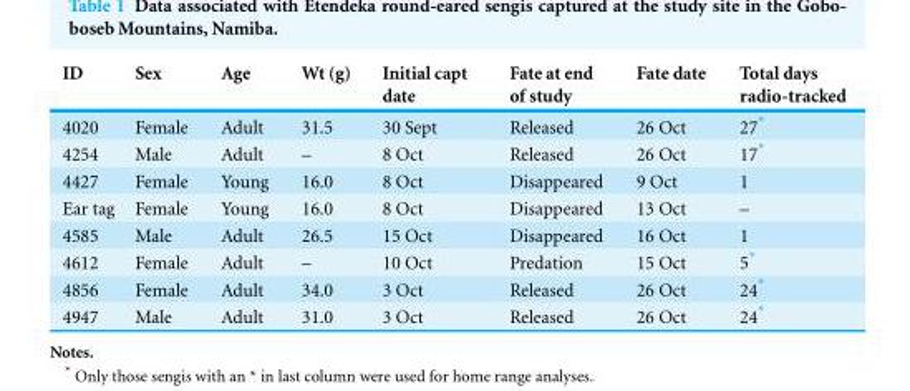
<table><thead><tr><td>ID</td><td>Sex</td><td>Age</td><td>Wt (g)</td><td>Initial capt date</td><td>Fate at end of study</td><td>Fate date</td><td>Total days radio-tracked</td></tr></thead><tbody><tr><td>4020</td><td>Female</td><td>Adult</td><td>31.5</td><td>30 Sept</td><td>Released</td><td>26 Oct</td><td>27*</td></tr><tr><td>4254</td><td>Male</td><td>Adult</td><td>–</td><td>8 Oct</td><td>Released</td><td>26 Oct</td><td>17*</td></tr><tr><td>4427</td><td>Female</td><td>Young</td><td>16.0</td><td>8 Oct</td><td>Disappeared</td><td>9 Oct</td><td>1</td></tr><tr><td>Ear tag</td><td>Female</td><td>Young</td><td>16.0</td><td>8 Oct</td><td>Disappeared</td><td>13 Oct</td><td>–</td></tr><tr><td>4585</td><td>Male</td><td>Adult</td><td>26.5</td><td>15 Oct</td><td>Disappeared</td><td>16 Oct</td><td>1</td></tr><tr><td>4612</td><td>Female</td><td>Adult</td><td>–</td><td>10 Oct</td><td>Predation</td><td>15 Oct</td><td>5*</td></tr><tr><td>4856</td><td>Female</td><td>Adult</td><td>34.0</td><td>3 Oct</td><td>Released</td><td>26 Oct</td><td>24*</td></tr><tr><td>4947</td><td>Male</td><td>Adult</td><td>31.0</td><td>3 Oct</td><td>Released</td><td>26 Oct</td><td>24*</td></tr></tbody></table>